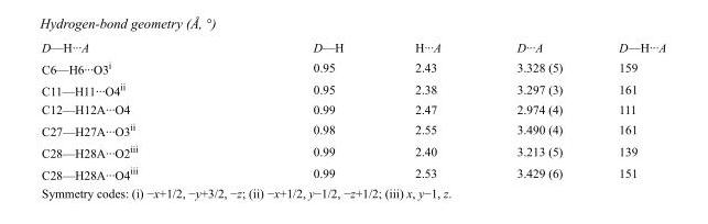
<table><tbody><tr><td>D—H···A</td><td>D—H</td><td>H···A</td><td>D···A</td><td>D—H···A</td></tr><tr><td>C6—H6···O3<sup>i</sup></td><td>0.95</td><td>2.43</td><td>3.328 (5)</td><td>159</td></tr><tr><td>C11—H11···O4<sup>ii</sup></td><td>0.95</td><td>2.38</td><td>3.297 (3)</td><td>161</td></tr><tr><td>C12—H12A···O4</td><td>0.99</td><td>2.47</td><td>2.974 (4)</td><td>111</td></tr><tr><td>C27—H27A···O3<sup>ii</sup></td><td>0.98</td><td>2.55</td><td>3.490 (4)</td><td>161</td></tr><tr><td>C28—H28A···O2<sup>iii</sup></td><td>0.99</td><td>2.40</td><td>3.213 (5)</td><td>139</td></tr><tr><td>C28—H28A···O4<sup>iii</sup></td><td>0.99</td><td>2.53</td><td>3.429 (6)</td><td>151</td></tr></tbody></table>